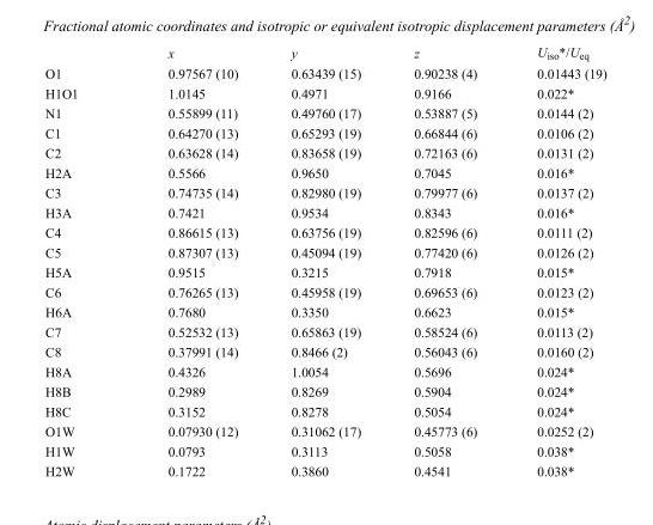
<table><thead><tr><td></td><td>x</td><td>y</td><td>z</td><td>U<sub>iso</sub>*/U<sub>eq</sub></td></tr></thead><tbody><tr><td>O1</td><td>0.97567 (10)</td><td>0.63439 (15)</td><td>0.90238 (4)</td><td>0.01443 (19)</td></tr><tr><td>H1O1</td><td>1.0145</td><td>0.4971</td><td>0.9166</td><td>0.022*</td></tr><tr><td>N1</td><td>0.55899 (11)</td><td>0.49760 (17)</td><td>0.53887 (5)</td><td>0.0144 (2)</td></tr><tr><td>C1</td><td>0.64270 (13)</td><td>0.65293 (19)</td><td>0.66844 (6)</td><td>0.0106 (2)</td></tr><tr><td>C2</td><td>0.63628 (14)</td><td>0.83658 (19)</td><td>0.72163 (6)</td><td>0.0131 (2)</td></tr><tr><td>H2A</td><td>0.5566</td><td>0.9650</td><td>0.7045</td><td>0.016*</td></tr><tr><td>C3</td><td>0.74735 (14)</td><td>0.82980 (19)</td><td>0.79977 (6)</td><td>0.0137 (2)</td></tr><tr><td>H3A</td><td>0.7421</td><td>0.9534</td><td>0.8343</td><td>0.016*</td></tr><tr><td>C4</td><td>0.86615 (13)</td><td>0.63756 (19)</td><td>0.82596 (6)</td><td>0.0111 (2)</td></tr><tr><td>C5</td><td>0.87307 (13)</td><td>0.45094 (19)</td><td>0.77420 (6)</td><td>0.0126 (2)</td></tr><tr><td>H5A</td><td>0.9515</td><td>0.3215</td><td>0.7918</td><td>0.015*</td></tr><tr><td>C6</td><td>0.76265 (13)</td><td>0.45958 (19)</td><td>0.69653 (6)</td><td>0.0123 (2)</td></tr><tr><td>H6A</td><td>0.7680</td><td>0.3350</td><td>0.6623</td><td>0.015*</td></tr><tr><td>C7</td><td>0.52532 (13)</td><td>0.65863 (19)</td><td>0.58524 (6)</td><td>0.0113 (2)</td></tr><tr><td>C8</td><td>0.37991 (14)</td><td>0.8466 (2)</td><td>0.56043 (6)</td><td>0.0160 (2)</td></tr><tr><td>H8A</td><td>0.4326</td><td>1.0054</td><td>0.5696</td><td>0.024*</td></tr><tr><td>H8B</td><td>0.2989</td><td>0.8269</td><td>0.5904</td><td>0.024*</td></tr><tr><td>H8C</td><td>0.3152</td><td>0.8278</td><td>0.5054</td><td>0.024*</td></tr><tr><td>O1W</td><td>0.07930 (12)</td><td>0.31062 (17)</td><td>0.45773 (6)</td><td>0.0252 (2)</td></tr><tr><td>H1W</td><td>0.0793</td><td>0.3113</td><td>0.5058</td><td>0.038*</td></tr><tr><td>H2W</td><td>0.1722</td><td>0.3860</td><td>0.4541</td><td>0.038*</td></tr></tbody></table>